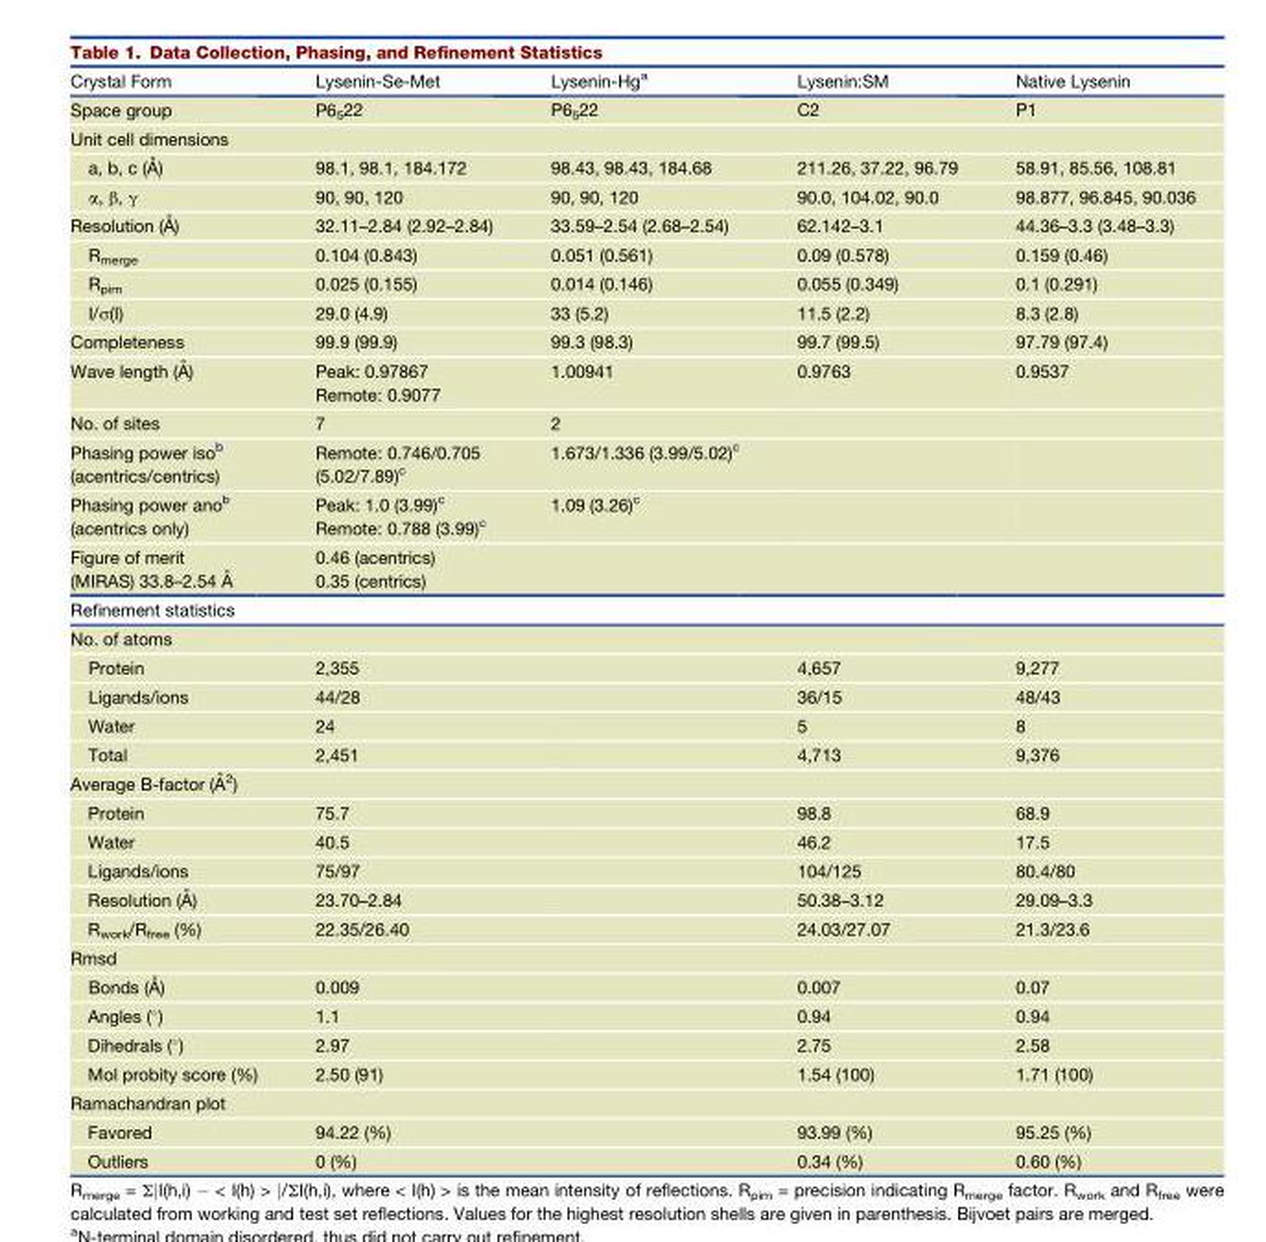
<table><thead><tr><td>Crystal Form</td><td>Lysenin-Se-Met</td><td>Lysenin-Hg<sup>a</sup></td><td>Lysenin:SM</td><td>Native Lysenin</td></tr></thead><tbody><tr><td>Space group</td><td>P6<sub>5</sub>22</td><td>P6<sub>5</sub>22</td><td>C2</td><td>P1</td></tr><tr><td colspan="5">Unit cell dimensions</td></tr><tr><td>a, b, c (A˚ )</td><td>98.1, 98.1, 184.172</td><td>98.43, 98.43, 184.68</td><td>211.26, 37.22, 96.79</td><td>58.91, 85.56, 108.81</td></tr><tr><td>α, β, γ</td><td>90, 90, 120</td><td>90, 90, 120</td><td>90.0, 104.02, 90.0</td><td>98.877, 96.845, 90.036</td></tr><tr><td>Resolution (A˚ )</td><td>32.11–2.84 (2.92–2.84)</td><td>33.59–2.54 (2.68–2.54)</td><td>62.142–3.1</td><td>44.36–3.3 (3.48–3.3)</td></tr><tr><td>R<sub>merge</sub></td><td>0.104 (0.843)</td><td>0.051 (0.561)</td><td>0.09 (0.578)</td><td>0.159 (0.46)</td></tr><tr><td>R<sub>pim</sub></td><td>0.025 (0.155)</td><td>0.014 (0.146)</td><td>0.055 (0.349)</td><td>0.1 (0.291)</td></tr><tr><td>I/σ(I)</td><td>29.0 (4.9)</td><td>33 (5.2)</td><td>11.5 (2.2)</td><td>8.3 (2.8)</td></tr><tr><td>Completeness</td><td>99.9 (99.9)</td><td>99.3 (98.3)</td><td>99.7 (99.5)</td><td>97.79 (97.4)</td></tr><tr><td>Wave length (A˚ )</td><td>Peak: 0.97867 Remote: 0.9077</td><td>1.00941</td><td>0.9763</td><td>0.9537</td></tr><tr><td>No. of sites</td><td>7</td><td>2</td><td></td><td></td></tr><tr><td>Phasing power iso<sup>b</sup> (acentrics/centrics)</td><td>Remote: 0.746/0.705 (5.02/7.89)<sup>c</sup></td><td>1.673/1.336 (3.99/5.02)<sup>c</sup></td><td></td><td></td></tr><tr><td>Phasing power ano<sup>b</sup> (acentrics only)</td><td>Peak: 1.0 (3.99)<sup>c</sup> Remote: 0.788 (3.99)<sup>c</sup></td><td>1.09 (3.26)<sup>c</sup></td><td></td><td></td></tr><tr><td>Figure of merit (MIRAS) 33.8–2.54 A˚</td><td colspan="2">0.46 (acentrics) 0.35 (centrics)</td><td></td><td></td></tr><tr><td colspan="5">Refinement statistics</td></tr><tr><td colspan="5">No. of atoms</td></tr><tr><td>Protein</td><td>2,355</td><td></td><td>4,657</td><td>9,277</td></tr><tr><td>Ligands/ions</td><td>44/28</td><td></td><td>36/15</td><td>48/43</td></tr><tr><td>Water</td><td>24</td><td></td><td>5</td><td>8</td></tr><tr><td>Total</td><td>2,451</td><td></td><td>4,713</td><td>9,376</td></tr><tr><td colspan="5">Average B-factor (A˚ 2)</td></tr><tr><td>Protein</td><td>75.7</td><td></td><td>98.8</td><td>68.9</td></tr><tr><td>Water</td><td>40.5</td><td></td><td>46.2</td><td>17.5</td></tr><tr><td>Ligands/ions</td><td>75/97</td><td></td><td>104/125</td><td>80.4/80</td></tr><tr><td>Resolution (A˚ )</td><td>23.70–2.84</td><td></td><td>50.38–3.12</td><td>29.09–3.3</td></tr><tr><td>R<sub>work</sub>/R<sub>free</sub> (%)</td><td>22.35/26.40</td><td></td><td>24.03/27.07</td><td>21.3/23.6</td></tr><tr><td colspan="5">Rmsd</td></tr><tr><td>Bonds (A˚ )</td><td>0.009</td><td></td><td>0.007</td><td>0.07</td></tr><tr><td>Angles (°)</td><td>1.1</td><td></td><td>0.94</td><td>0.94</td></tr><tr><td>Dihedrals (°)</td><td>2.97</td><td></td><td>2.75</td><td>2.58</td></tr><tr><td>Mol probity score (%)</td><td>2.50 (91)</td><td></td><td>1.54 (100)</td><td>1.71 (100)</td></tr><tr><td colspan="5">Ramachandran plot</td></tr><tr><td>Favored</td><td>94.22 (%)</td><td></td><td>93.99 (%)</td><td>95.25 (%)</td></tr><tr><td>Outliers</td><td>0 (%)</td><td></td><td>0.34 (%)</td><td>0.60 (%)</td></tr></tbody></table>